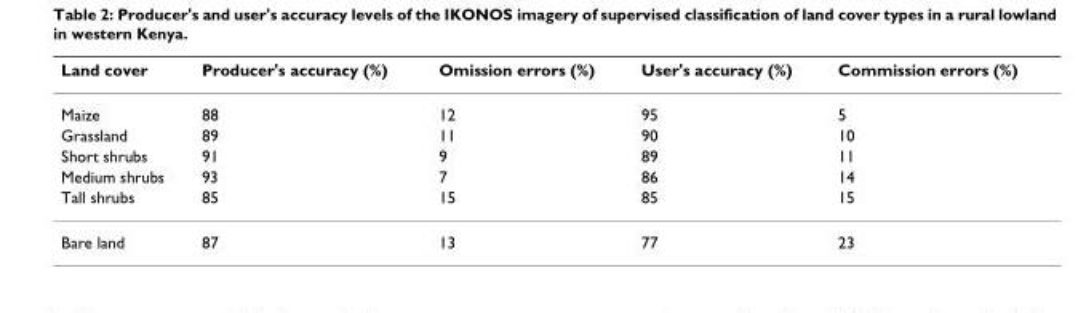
<table><thead><tr><td>Land cover</td><td>Producer&#x27;s accuracy (%)</td><td>Omission errors (%)</td><td>User&#x27;s accuracy (%)</td><td>Commission errors (%)</td></tr></thead><tbody><tr><td>Maize</td><td>88</td><td>12</td><td>95</td><td>5</td></tr><tr><td>Grassland</td><td>89</td><td>11</td><td>90</td><td>10</td></tr><tr><td>Short shrubs</td><td>91</td><td>9</td><td>89</td><td>11</td></tr><tr><td>Medium shrubs</td><td>93</td><td>7</td><td>86</td><td>14</td></tr><tr><td>Tall shrubs</td><td>85</td><td>15</td><td>85</td><td>15</td></tr><tr><td>Bare land</td><td>87</td><td>13</td><td>77</td><td>23</td></tr></tbody></table>